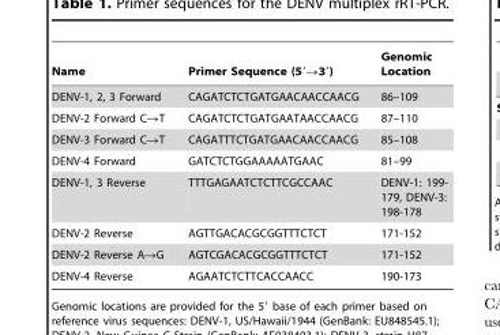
<table><thead><tr><td>Name</td><td>Primer Sequence (5′→3′)</td><td>Genomic Location</td></tr></thead><tbody><tr><td>DENV-1, 2, 3 Forward</td><td>CAGATCTCTGATGAACAACCAACG</td><td>86–109</td></tr><tr><td>DENV-2 Forward C→T</td><td>CAGATCTCTGATGAATAACCAACG</td><td>87–110</td></tr><tr><td>DENV-3 Forward C→T</td><td>CAGATTTCTGATGAACAACCAACG</td><td>85–108</td></tr><tr><td>DENV-4 Forward</td><td>GATCTCTGGAAAAATGAAC</td><td>81–99</td></tr><tr><td>DENV-1, 3 Reverse</td><td>TTTGAGAATCTCTTCGCCAAC</td><td>DENV-1: 199- 179, DENV-3: 198-178</td></tr><tr><td>DENV-2 Reverse</td><td>AGTTGACACGCGGTTTCTCT</td><td>171-152</td></tr><tr><td>DENV-2 Reverse A→G</td><td>AGTCGACACGCGGTTTCTCT</td><td>171-152</td></tr><tr><td>DENV-4 Reverse</td><td>AGAATCTCTTCACCAACC</td><td>190-173</td></tr></tbody></table>